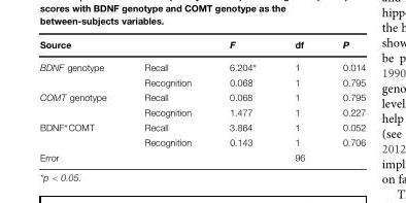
<table><thead><tr><td>Source</td><td></td><td>F</td><td>df</td><td>P</td></tr></thead><tbody><tr><td rowspan="2">BDNF genotype</td><td>Recall</td><td>6.204∗</td><td>1</td><td>0.014</td></tr><tr><td>Recognition</td><td>0.068</td><td>1</td><td>0.795</td></tr><tr><td rowspan="2">COMT genotype</td><td>Recall</td><td>0.068</td><td>1</td><td>0.795</td></tr><tr><td>Recognition</td><td>1.477</td><td>1</td><td>0.227</td></tr><tr><td rowspan="2">BDNF∗COMT</td><td>Recall</td><td>3.864</td><td>1</td><td>0.052</td></tr><tr><td>Recognition</td><td>0.143</td><td>1</td><td>0.706</td></tr><tr><td>Error</td><td></td><td></td><td>96</td><td></td></tr></tbody></table>